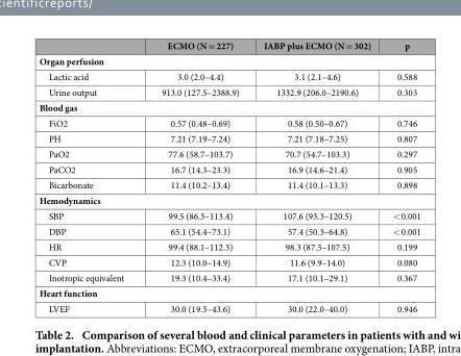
<table><thead><tr><td></td><td>ECMO (N = 227)</td><td>IABP plus ECMO (N = 302)</td><td>p</td></tr></thead><tbody><tr><td colspan="4">Organ perfusion</td></tr><tr><td>Lactic acid</td><td>3.0 (2.0–4.4)</td><td>3.1 (2.1–4.6)</td><td>0.588</td></tr><tr><td>Urine output</td><td>913.0 (127.5–2388.9)</td><td>1332.9 (206.0–2190.6)</td><td>0.303</td></tr><tr><td colspan="4">Blood gas</td></tr><tr><td>FiO2</td><td>0.57 (0.48–0.69)</td><td>0.58 (0.50–0.67)</td><td>0.746</td></tr><tr><td>PH</td><td>7.21 (7.19–7.24)</td><td>7.21 (7.18–7.25)</td><td>0.807</td></tr><tr><td>PaO2</td><td>77.6 (58.7–103.7)</td><td>70.7 (54.7–103.3)</td><td>0.297</td></tr><tr><td>PaCO2</td><td>16.7 (14.3–23.3)</td><td>16.9 (14.6–21.4)</td><td>0.905</td></tr><tr><td>Bicarbonate</td><td>11.4 (10.2–13.4)</td><td>11.4 (10.1–13.3)</td><td>0.898</td></tr><tr><td colspan="4">Hemodynamics</td></tr><tr><td>SBP</td><td>99.5 (86.3–113.4)</td><td>107.6 (93.3–120.5)</td><td>&lt; 0.001</td></tr><tr><td>DBP</td><td>65.1 (54.4–73.1)</td><td>57.4 (50.3–64.8)</td><td>&lt; 0.001</td></tr><tr><td>HR</td><td>99.4 (88.1–112.3)</td><td>98.3 (87.5–107.5)</td><td>0.199</td></tr><tr><td>CVP</td><td>12.3 (10.0–14.9)</td><td>11.6 (9.9–14.0)</td><td>0.080</td></tr><tr><td>Inotropic equivalent</td><td>19.3 (10.4–33.4)</td><td>17.1 (10.1–29.1)</td><td>0.367</td></tr><tr><td colspan="4">Heart function</td></tr><tr><td>LVEF</td><td>30.0 (19.5–43.6)</td><td>30.0 (22.0–40.0)</td><td>0.946</td></tr></tbody></table>